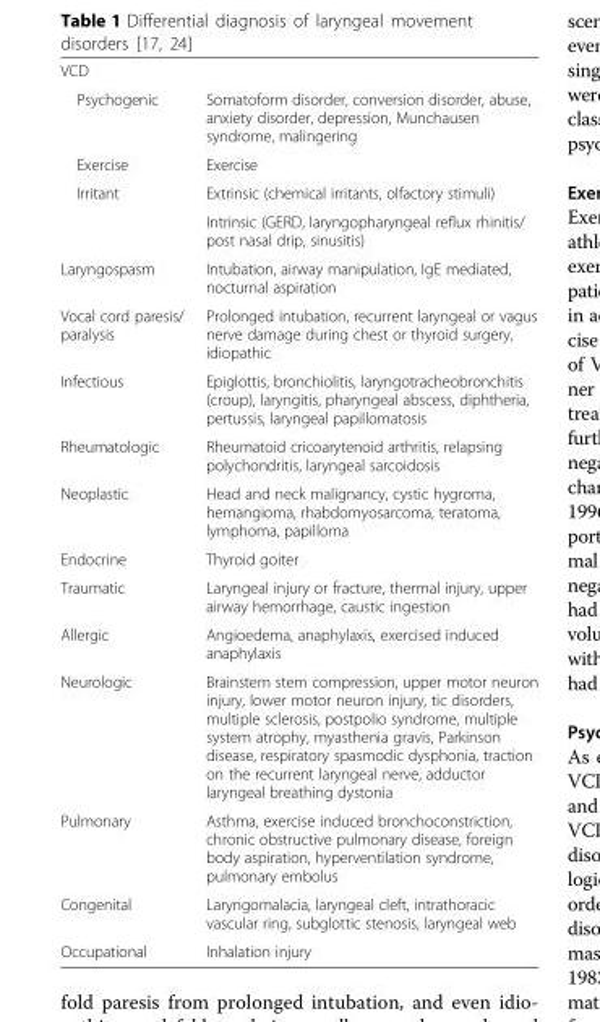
<table><tbody><tr><td colspan="2">VCD</td></tr><tr><td>Psychogenic</td><td>Somatoform disorder, conversion disorder, abuse, anxiety disorder, depression, Munchausen syndrome, malingering</td></tr><tr><td>Exercise</td><td>Exercise</td></tr><tr><td rowspan="2">Irritant</td><td>Extrinsic (chemical irritants, olfactory stimuli)</td></tr><tr><td>Intrinsic (GERD, laryngopharyngeal reflux rhinitis/ post nasal drip, sinusitis)</td></tr><tr><td>Laryngospasm</td><td>Intubation, airway manipulation, IgE mediated, nocturnal aspiration</td></tr><tr><td>Vocal cord paresis/ paralysis</td><td>Prolonged intubation, recurrent laryngeal or vagus nerve damage during chest or thyroid surgery, idiopathic</td></tr><tr><td>Infectious</td><td>Epiglottis, bronchiolitis, laryngotracheobronchitis (croup), laryngitis, pharyngeal abscess, diphtheria, pertussis, laryngeal papillomatosis</td></tr><tr><td>Rheumatologic</td><td>Rheumatoid cricoarytenoid arthritis, relapsing polychondritis, laryngeal sarcoidosis</td></tr><tr><td>Neoplastic</td><td>Head and neck malignancy, cystic hygroma, hemangioma, rhabdomyosarcoma, teratoma, lymphoma, papilloma</td></tr><tr><td>Endocrine</td><td>Thyroid goiter</td></tr><tr><td>Traumatic</td><td>Laryngeal injury or fracture, thermal injury, upper airway hemorrhage, caustic ingestion</td></tr><tr><td>Allergic</td><td>Angioedema, anaphylaxis, exercised induced anaphylaxis</td></tr><tr><td>Neurologic</td><td>Brainstem stem compression, upper motor neuron injury, lower motor neuron injury, tic disorders, multiple sclerosis, postpolio syndrome, multiple system atrophy, myasthenia gravis, Parkinson disease, respiratory spasmodic dysphonia, traction on the recurrent laryngeal nerve, adductor laryngeal breathing dystonia</td></tr><tr><td>Pulmonary</td><td>Asthma, exercise induced bronchoconstriction, chronic obstructive pulmonary disease, foreign body aspiration, hyperventilation syndrome, pulmonary embolus</td></tr><tr><td>Congenital</td><td>Laryngomalacia, laryngeal cleft, intrathoracic vascular ring, subglottic stenosis, laryngeal web</td></tr><tr><td>Occupational</td><td>Inhalation injury</td></tr></tbody></table>